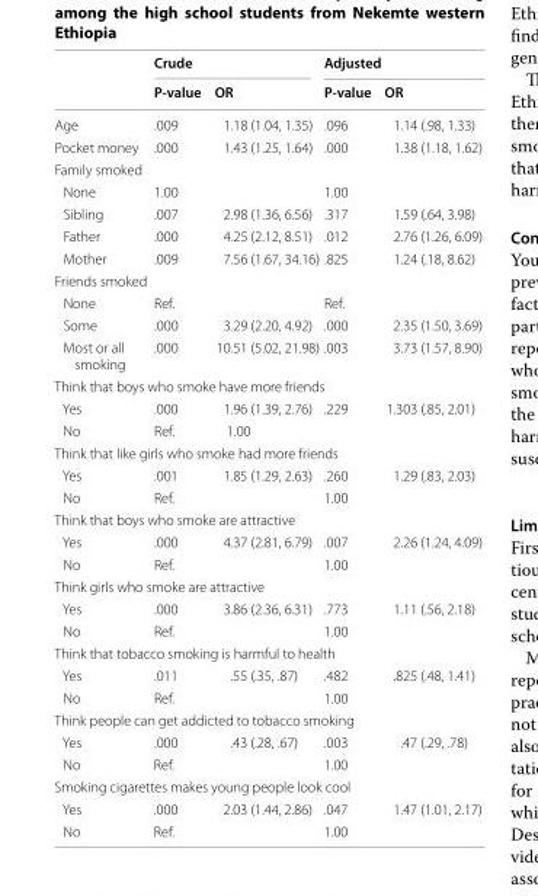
<table><thead><tr><td rowspan="2"></td><td colspan="2">Crude</td><td colspan="2">Adjusted</td></tr><tr><td>P-value</td><td>OR</td><td>P-value</td><td>OR</td></tr></thead><tbody><tr><td>Age</td><td>.009</td><td>1.18 (1.04, 1.35)</td><td>.096</td><td>1.14 (.98, 1.33)</td></tr><tr><td>Pocket money</td><td>.000</td><td>1.43 (1.25, 1.64)</td><td>.000</td><td>1.38 (1.18, 1.62)</td></tr><tr><td colspan="5">Family smoked</td></tr><tr><td>None</td><td>1.00</td><td></td><td>1.00</td><td></td></tr><tr><td>Sibling</td><td>.007</td><td>2.98 (1.36, 6.56)</td><td>.317</td><td>1.59 (.64, 3.98)</td></tr><tr><td>Father</td><td>.000</td><td>4.25 (2.12, 8.51)</td><td>.012</td><td>2.76 (1.26, 6.09)</td></tr><tr><td>Mother</td><td>.009</td><td>7.56 (1.67, 34.16)</td><td>.825</td><td>1.24 (.18, 8.62)</td></tr><tr><td colspan="5">Friends smoked</td></tr><tr><td>None</td><td>Ref.</td><td></td><td>Ref.</td><td></td></tr><tr><td>Some</td><td>.000</td><td>3.29 (2.20, 4.92)</td><td>.000</td><td>2.35 (1.50, 3.69)</td></tr><tr><td>Most or all smoking</td><td>.000</td><td>10.51 (5.02, 21.98)</td><td>.003</td><td>3.73 (1.57, 8.90)</td></tr><tr><td colspan="5">Think that boys who smoke have more friends</td></tr><tr><td>Yes</td><td>.000</td><td>1.96 (1.39, 2.76)</td><td>.229</td><td>1.303 (.85, 2.01)</td></tr><tr><td>No</td><td>Ref.</td><td>1.00</td><td></td><td></td></tr><tr><td colspan="5">Think that like girls who smoke had more friends</td></tr><tr><td>Yes</td><td>.001</td><td>1.85 (1.29, 2.63)</td><td>.260</td><td>1.29 (.83, 2.03)</td></tr><tr><td>No</td><td>Ref.</td><td></td><td>1.00</td><td></td></tr><tr><td colspan="5">Think that boys who smoke are attractive</td></tr><tr><td>Yes</td><td>.000</td><td>4.37 (2.81, 6.79)</td><td>.007</td><td>2.26 (1.24, 4.09)</td></tr><tr><td>No</td><td>Ref.</td><td></td><td>1.00</td><td></td></tr><tr><td colspan="5">Think girls who smoke are attractive</td></tr><tr><td>Yes</td><td>.000</td><td>3.86 (2.36, 6.31)</td><td>.773</td><td>1.11 (.56, 2.18)</td></tr><tr><td>No</td><td>Ref.</td><td></td><td>1.00</td><td></td></tr><tr><td colspan="5">Think that tobacco smoking is harmful to health</td></tr><tr><td>Yes</td><td>.011</td><td>.55 (.35, .87)</td><td>.482</td><td>.825 (.48, 1.41)</td></tr><tr><td>No</td><td>Ref.</td><td></td><td>1.00</td><td></td></tr><tr><td colspan="5">Think people can get addicted to tobacco smoking</td></tr><tr><td>Yes</td><td>.000</td><td>.43 (.28, .67)</td><td>.003</td><td>.47 (.29, .78)</td></tr><tr><td>No</td><td>Ref.</td><td></td><td>1.00</td><td></td></tr><tr><td colspan="5">Smoking cigarettes makes young people look cool</td></tr><tr><td>Yes</td><td>.000</td><td>2.03 (1.44, 2.86)</td><td>.047</td><td>1.47 (1.01, 2.17)</td></tr><tr><td>No</td><td>Ref.</td><td></td><td>1.00</td><td></td></tr></tbody></table>